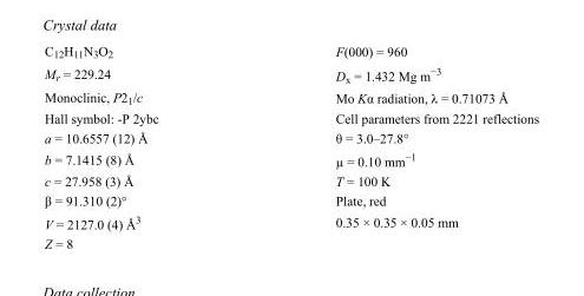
<table><tbody><tr><td>C<sub>12</sub>H<sub>11</sub>N<sub>3</sub>O<sub>2</sub></td><td>F(000) = 960</td></tr><tr><td>M<sub>r</sub> = 229.24</td><td>D<sub>x</sub> = 1.432 Mg m<sup>−3</sup></td></tr><tr><td>Monoclinic, P2<sub>1</sub>/c</td><td>Mo Kα radiation, λ = 0.71073 Å</td></tr><tr><td>Hall symbol: -P 2ybc</td><td>Cell parameters from 2221 reflections</td></tr><tr><td>a = 10.6557 (12) Å</td><td>θ = 3.0–27.8°</td></tr><tr><td>b = 7.1415 (8) Å</td><td>µ = 0.10 mm<sup>−1</sup></td></tr><tr><td>c = 27.958 (3) Å</td><td>T = 100 K</td></tr><tr><td>β = 91.310 (2)°</td><td>Plate, red</td></tr><tr><td>V = 2127.0 (4) Å<sup>3</sup></td><td>0.35 × 0.35 × 0.05 mm</td></tr><tr><td>Z = 8</td><td></td></tr></tbody></table>